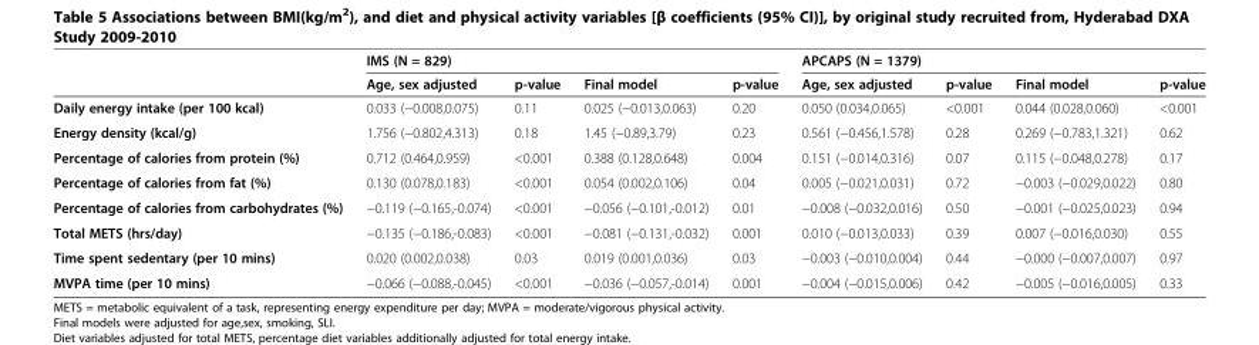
<table><thead><tr><td rowspan="2"></td><td colspan="4">IMS (N = 829)</td><td colspan="4">APCAPS (N = 1379)</td></tr><tr><td>Age, sex adjusted</td><td>p-value</td><td>Final model</td><td>p-value</td><td>Age, sex adjusted</td><td>p-value</td><td>Final model</td><td>p-value</td></tr></thead><tbody><tr><td>Daily energy intake (per 100 kcal)</td><td>0.033 (−0.008,0.075)</td><td>0.11</td><td>0.025 (−0.013,0.063)</td><td>0.20</td><td>0.050 (0.034,0.065)</td><td>&lt;0.001</td><td>0.044 (0.028,0.060)</td><td>&lt;0.001</td></tr><tr><td>Energy density (kcal/g)</td><td>1.756 (−0.802,4.313)</td><td>0.18</td><td>1.45 (−0.89,3.79)</td><td>0.23</td><td>0.561 (−0.456,1.578)</td><td>0.28</td><td>0.269 (−0.783,1.321)</td><td>0.62</td></tr><tr><td>Percentage of calories from protein (%)</td><td>0.712 (0.464,0.959)</td><td>&lt;0.001</td><td>0.388 (0.128,0.648)</td><td>0.004</td><td>0.151 (−0.014,0.316)</td><td>0.07</td><td>0.115 (−0.048,0.278)</td><td>0.17</td></tr><tr><td>Percentage of calories from fat (%)</td><td>0.130 (0.078,0.183)</td><td>&lt;0.001</td><td>0.054 (0.002,0.106)</td><td>0.04</td><td>0.005 (−0.021,0.031)</td><td>0.72</td><td>−0.003 (−0.029,0.022)</td><td>0.80</td></tr><tr><td>Percentage of calories from carbohydrates (%)</td><td>−0.119 (−0.165,-0.074)</td><td>&lt;0.001</td><td>−0.056 (−0.101,-0.012)</td><td>0.01</td><td>−0.008 (−0.032,0.016)</td><td>0.50</td><td>−0.001 (−0.025,0.023)</td><td>0.94</td></tr><tr><td>Total METS (hrs/day)</td><td>−0.135 (−0.186,-0.083)</td><td>&lt;0.001</td><td>−0.081 (−0.131,-0.032)</td><td>0.001</td><td>0.010 (−0.013,0.033)</td><td>0.39</td><td>0.007 (−0.016,0.030)</td><td>0.55</td></tr><tr><td>Time spent sedentary (per 10 mins)</td><td>0.020 (0.002,0.038)</td><td>0.03</td><td>0.019 (0.001,0.036)</td><td>0.03</td><td>−0.003 (−0.010,0.004)</td><td>0.44</td><td>−0.000 (−0.007,0.007)</td><td>0.97</td></tr><tr><td>MVPA time (per 10 mins)</td><td>−0.066 (−0.088,-0.045)</td><td>&lt;0.001</td><td>−0.036 (−0.057,-0.014)</td><td>0.001</td><td>−0.004 (−0.015,0.006)</td><td>0.42</td><td>−0.005 (−0.016,0.005)</td><td>0.33</td></tr></tbody></table>